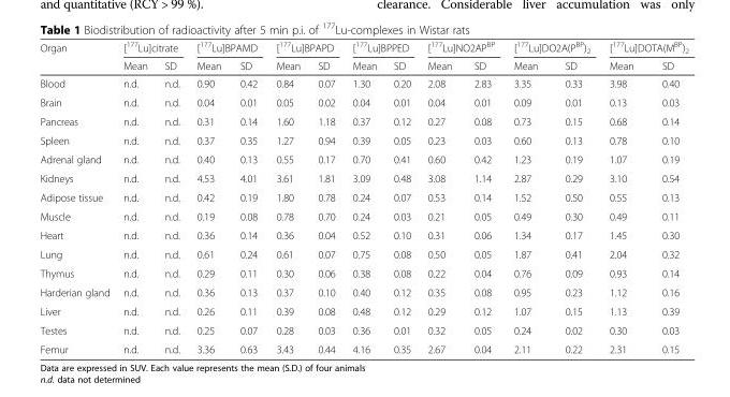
<table><thead><tr><td rowspan="2">Organ</td><td colspan="2">[<sup>177</sup>Lu]citrate</td><td colspan="2">[<sup>177</sup>Lu]BPAMD</td><td colspan="2">[<sup>177</sup>Lu]BPAPD</td><td colspan="2">[<sup>177</sup>Lu]BPPED</td><td colspan="2">[<sup>177</sup>Lu]NO2AP<sup>BP</sup></td><td colspan="2">[<sup>177</sup>Lu]DO2A(P<sup>BP</sup>)<sub>2</sub></td><td colspan="2">[<sup>177</sup>Lu]DOTA(M<sup>BP</sup>)<sub>2</sub></td></tr><tr><td>Mean</td><td>SD</td><td>Mean</td><td>SD</td><td>Mean</td><td>SD</td><td>Mean</td><td>SD</td><td>Mean</td><td>SD</td><td>Mean</td><td>SD</td><td>Mean</td><td>SD</td></tr></thead><tbody><tr><td>Blood</td><td>n.d.</td><td>n.d.</td><td>0.90</td><td>0.42</td><td>0.84</td><td>0.07</td><td>1.30</td><td>0.20</td><td>2.08</td><td>2.83</td><td>3.35</td><td>0.33</td><td>3.98</td><td>0.40</td></tr><tr><td>Brain</td><td>n.d.</td><td>n.d.</td><td>0.04</td><td>0.01</td><td>0.05</td><td>0.02</td><td>0.04</td><td>0.01</td><td>0.04</td><td>0.01</td><td>0.09</td><td>0.01</td><td>0.13</td><td>0.03</td></tr><tr><td>Pancreas</td><td>n.d.</td><td>n.d.</td><td>0.31</td><td>0.14</td><td>1.60</td><td>1.18</td><td>0.37</td><td>0.12</td><td>0.27</td><td>0.08</td><td>0.73</td><td>0.15</td><td>0.68</td><td>0.14</td></tr><tr><td>Spleen</td><td>n.d.</td><td>n.d.</td><td>0.37</td><td>0.35</td><td>1.27</td><td>0.94</td><td>0.39</td><td>0.05</td><td>0.23</td><td>0.03</td><td>0.60</td><td>0.13</td><td>0.78</td><td>0.10</td></tr><tr><td>Adrenal gland</td><td>n.d.</td><td>n.d.</td><td>0.40</td><td>0.13</td><td>0.55</td><td>0.17</td><td>0.70</td><td>0.41</td><td>0.60</td><td>0.42</td><td>1.23</td><td>0.19</td><td>1.07</td><td>0.19</td></tr><tr><td>Kidneys</td><td>n.d.</td><td>n.d.</td><td>4.53</td><td>4.01</td><td>3.61</td><td>1.81</td><td>3.09</td><td>0.48</td><td>3.08</td><td>1.14</td><td>2.87</td><td>0.29</td><td>3.10</td><td>0.54</td></tr><tr><td>Adipose tissue</td><td>n.d.</td><td>n.d.</td><td>0.42</td><td>0.19</td><td>1.80</td><td>0.78</td><td>0.24</td><td>0.07</td><td>0.53</td><td>0.14</td><td>1.52</td><td>0.50</td><td>0.55</td><td>0.13</td></tr><tr><td>Muscle</td><td>n.d.</td><td>n.d.</td><td>0.19</td><td>0.08</td><td>0.78</td><td>0.70</td><td>0.24</td><td>0.03</td><td>0.21</td><td>0.05</td><td>0.49</td><td>0.30</td><td>0.49</td><td>0.11</td></tr><tr><td>Heart</td><td>n.d.</td><td>n.d.</td><td>0.36</td><td>0.14</td><td>0.36</td><td>0.04</td><td>0.52</td><td>0.10</td><td>0.31</td><td>0.06</td><td>1.34</td><td>0.17</td><td>1.45</td><td>0.30</td></tr><tr><td>Lung</td><td>n.d.</td><td>n.d.</td><td>0.61</td><td>0.24</td><td>0.61</td><td>0.07</td><td>0.75</td><td>0.08</td><td>0.50</td><td>0.05</td><td>1.87</td><td>0.41</td><td>2.04</td><td>0.32</td></tr><tr><td>Thymus</td><td>n.d.</td><td>n.d.</td><td>0.29</td><td>0.11</td><td>0.30</td><td>0.06</td><td>0.38</td><td>0.08</td><td>0.22</td><td>0.04</td><td>0.76</td><td>0.09</td><td>0.93</td><td>0.14</td></tr><tr><td>Harderian gland</td><td>n.d.</td><td>n.d.</td><td>0.36</td><td>0.13</td><td>0.37</td><td>0.10</td><td>0.40</td><td>0.12</td><td>0.35</td><td>0.08</td><td>0.95</td><td>0.23</td><td>1.12</td><td>0.16</td></tr><tr><td>Liver</td><td>n.d.</td><td>n.d.</td><td>0.26</td><td>0.11</td><td>0.39</td><td>0.08</td><td>0.48</td><td>0.12</td><td>0.29</td><td>0.12</td><td>1.07</td><td>0.15</td><td>1.13</td><td>0.39</td></tr><tr><td>Testes</td><td>n.d.</td><td>n.d.</td><td>0.25</td><td>0.07</td><td>0.28</td><td>0.03</td><td>0.36</td><td>0.01</td><td>0.32</td><td>0.05</td><td>0.24</td><td>0.02</td><td>0.30</td><td>0.03</td></tr><tr><td>Femur</td><td>n.d.</td><td>n.d.</td><td>3.36</td><td>0.63</td><td>3.43</td><td>0.44</td><td>4.16</td><td>0.35</td><td>2.67</td><td>0.04</td><td>2.11</td><td>0.22</td><td>2.31</td><td>0.15</td></tr></tbody></table>